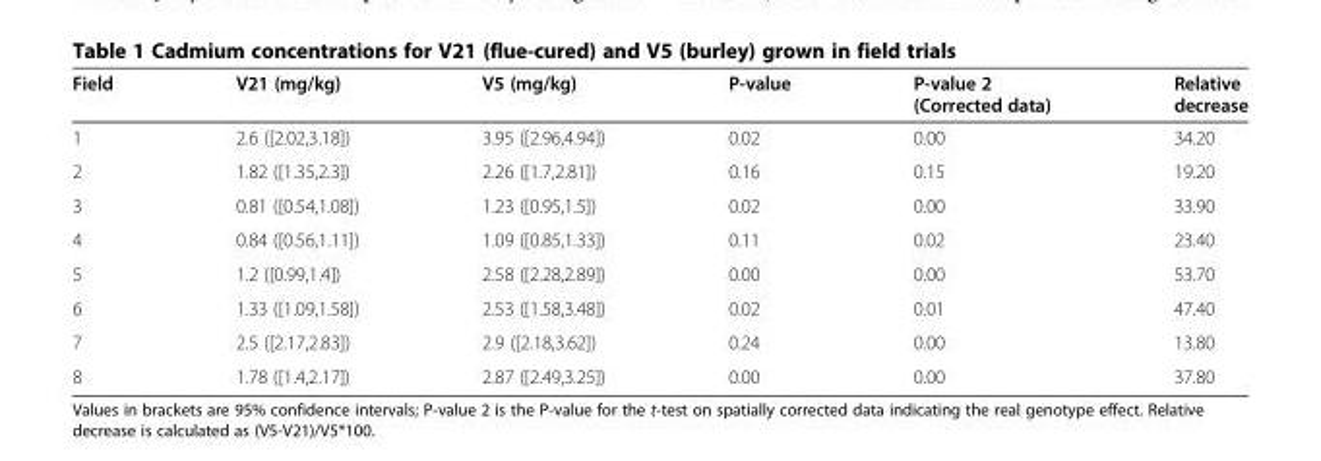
<table><thead><tr><td>Field</td><td>V21 (mg/kg)</td><td>V5 (mg/kg)</td><td>P-value</td><td>P-value 2 (Corrected data)</td><td>Relative decrease</td></tr></thead><tbody><tr><td>1</td><td>2.6 ([2.02,3.18])</td><td>3.95 ([2.96,4.94])</td><td>0.02</td><td>0.00</td><td>34.20</td></tr><tr><td>2</td><td>1.82 ([1.35,2.3])</td><td>2.26 ([1.7,2.81])</td><td>0.16</td><td>0.15</td><td>19.20</td></tr><tr><td>3</td><td>0.81 ([0.54,1.08])</td><td>1.23 ([0.95,1.5])</td><td>0.02</td><td>0.00</td><td>33.90</td></tr><tr><td>4</td><td>0.84 ([0.56,1.11])</td><td>1.09 ([0.85,1.33])</td><td>0.11</td><td>0.02</td><td>23.40</td></tr><tr><td>5</td><td>1.2 ([0.99,1.4])</td><td>2.58 ([2.28,2.89])</td><td>0.00</td><td>0.00</td><td>53.70</td></tr><tr><td>6</td><td>1.33 ([1.09,1.58])</td><td>2.53 ([1.58,3.48])</td><td>0.02</td><td>0.01</td><td>47.40</td></tr><tr><td>7</td><td>2.5 ([2.17,2.83])</td><td>2.9 ([2.18,3.62])</td><td>0.24</td><td>0.00</td><td>13.80</td></tr><tr><td>8</td><td>1.78 ([1.4,2.17])</td><td>2.87 ([2.49,3.25])</td><td>0.00</td><td>0.00</td><td>37.80</td></tr></tbody></table>